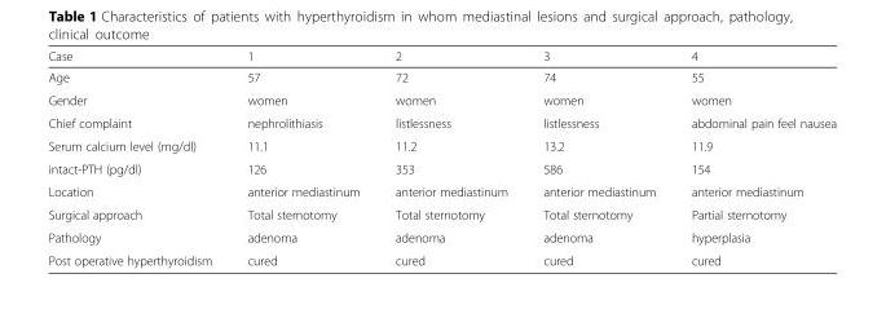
<table><thead><tr><td>Case</td><td>1</td><td>2</td><td>3</td><td>4</td></tr></thead><tbody><tr><td>Age</td><td>57</td><td>72</td><td>74</td><td>55</td></tr><tr><td>Gender</td><td>women</td><td>women</td><td>women</td><td>women</td></tr><tr><td>Chief complaint</td><td>nephrolithiasis</td><td>listlessness</td><td>listlessness</td><td>abdominal pain feel nausea</td></tr><tr><td>Serum calcium level (mg/dl)</td><td>11.1</td><td>11.2</td><td>13.2</td><td>11.9</td></tr><tr><td>intact-PTH (pg/dl)</td><td>126</td><td>353</td><td>586</td><td>154</td></tr><tr><td>Location</td><td>anterior mediastinum</td><td>anterior mediastinum</td><td>anterior mediastinum</td><td>anterior mediastinum</td></tr><tr><td>Surgical approach</td><td>Total sternotomy</td><td>Total sternotomy</td><td>Total sternotomy</td><td>Partial sternotomy</td></tr><tr><td>Pathology</td><td>adenoma</td><td>adenoma</td><td>adenoma</td><td>hyperplasia</td></tr><tr><td>Post operative hyperthyroidism</td><td>cured</td><td>cured</td><td>cured</td><td>cured</td></tr></tbody></table>